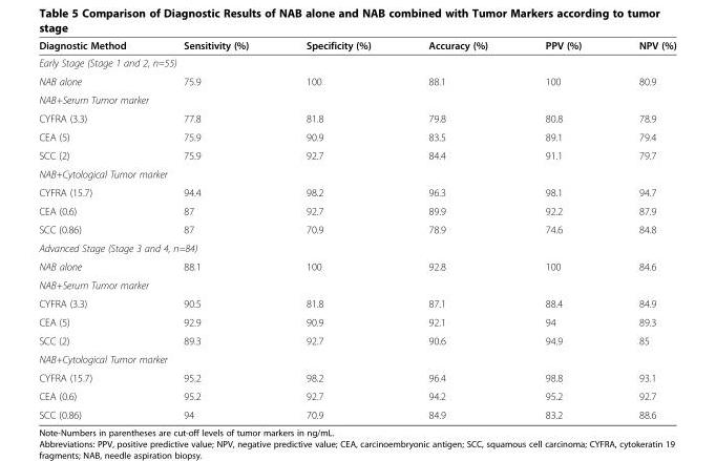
<table><thead><tr><td>Diagnostic Method</td><td>Sensitivity (%)</td><td>Specificity (%)</td><td>Accuracy (%)</td><td>PPV (%)</td><td>NPV (%)</td></tr></thead><tbody><tr><td colspan="6">Early Stage (Stage 1 and 2, n=55)</td></tr><tr><td>NAB alone</td><td>75.9</td><td>100</td><td>88.1</td><td>100</td><td>80.9</td></tr><tr><td colspan="6">NAB+Serum Tumor marker</td></tr><tr><td>CYFRA (3.3)</td><td>77.8</td><td>81.8</td><td>79.8</td><td>80.8</td><td>78.9</td></tr><tr><td>CEA (5)</td><td>75.9</td><td>90.9</td><td>83.5</td><td>89.1</td><td>79.4</td></tr><tr><td>SCC (2)</td><td>75.9</td><td>92.7</td><td>84.4</td><td>91.1</td><td>79.7</td></tr><tr><td colspan="6">NAB+Cytological Tumor marker</td></tr><tr><td>CYFRA (15.7)</td><td>94.4</td><td>98.2</td><td>96.3</td><td>98.1</td><td>94.7</td></tr><tr><td>CEA (0.6)</td><td>87</td><td>92.7</td><td>89.9</td><td>92.2</td><td>87.9</td></tr><tr><td>SCC (0.86)</td><td>87</td><td>70.9</td><td>78.9</td><td>74.6</td><td>84.8</td></tr><tr><td colspan="6">Advanced Stage (Stage 3 and 4, n=84)</td></tr><tr><td>NAB alone</td><td>88.1</td><td>100</td><td>92.8</td><td>100</td><td>84.6</td></tr><tr><td colspan="6">NAB+Serum Tumor marker</td></tr><tr><td>CYFRA (3.3)</td><td>90.5</td><td>81.8</td><td>87.1</td><td>88.4</td><td>84.9</td></tr><tr><td>CEA (5)</td><td>92.9</td><td>90.9</td><td>92.1</td><td>94</td><td>89.3</td></tr><tr><td>SCC (2)</td><td>89.3</td><td>92.7</td><td>90.6</td><td>94.9</td><td>85</td></tr><tr><td colspan="6">NAB+Cytological Tumor marker</td></tr><tr><td>CYFRA (15.7)</td><td>95.2</td><td>98.2</td><td>96.4</td><td>98.8</td><td>93.1</td></tr><tr><td>CEA (0.6)</td><td>95.2</td><td>92.7</td><td>94.2</td><td>95.2</td><td>92.7</td></tr><tr><td>SCC (0.86)</td><td>94</td><td>70.9</td><td>84.9</td><td>83.2</td><td>88.6</td></tr></tbody></table>